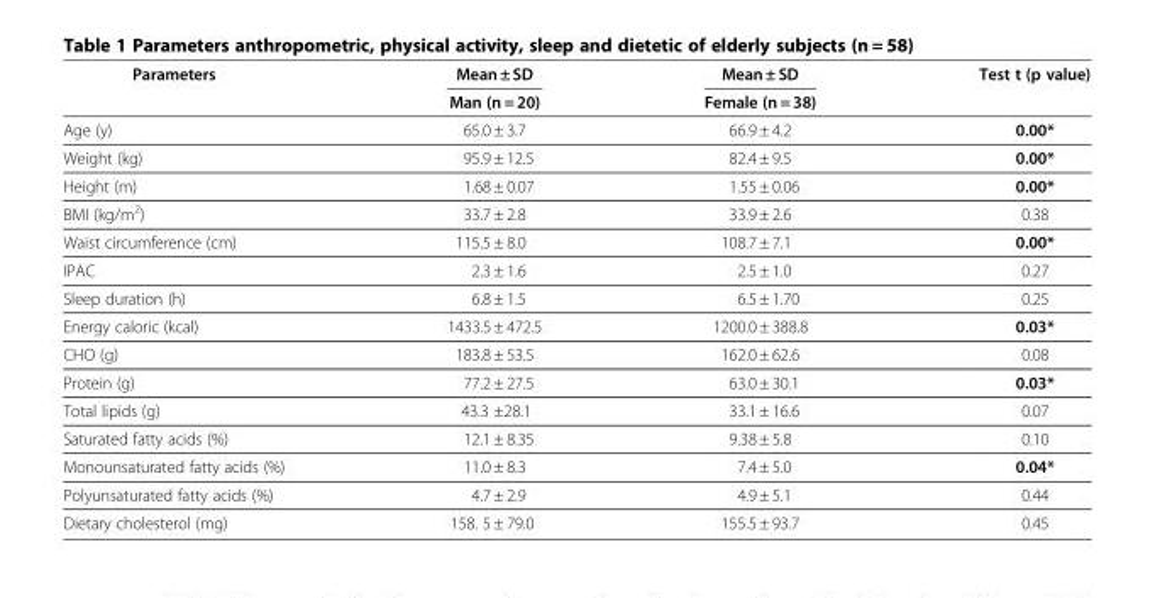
<table><thead><tr><td rowspan="2">Parameters</td><td rowspan="2">Mean ± SD Man (n = 20)</td><td rowspan="2">Mean ± SD Female (n = 38)</td><td rowspan="2">Test t (p value)</td></tr><tr></tr></thead><tbody><tr><td>Age (y)</td><td>65.0 ± 3.7</td><td>66.9 ± 4.2</td><td>0.00*</td></tr><tr><td>Weight (kg)</td><td>95.9 ± 12.5</td><td>82.4 ± 9.5</td><td>0.00*</td></tr><tr><td>Height (m)</td><td>1.68 ± 0.07</td><td>1.55 ± 0.06</td><td>0.00*</td></tr><tr><td>BMI (kg/m<sup>2</sup>)</td><td>33.7 ± 2.8</td><td>33.9 ± 2.6</td><td>0.38</td></tr><tr><td>Waist circumference (cm)</td><td>115.5 ± 8.0</td><td>108.7 ± 7.1</td><td>0.00*</td></tr><tr><td>IPAC</td><td>2.3 ± 1.6</td><td>2.5 ± 1.0</td><td>0.27</td></tr><tr><td>Sleep duration (h)</td><td>6.8 ± 1.5</td><td>6.5 ± 1.70</td><td>0.25</td></tr><tr><td>Energy caloric (kcal)</td><td>1433.5 ± 472.5</td><td>1200.0 ± 388.8</td><td>0.03*</td></tr><tr><td>CHO (g)</td><td>183.8 ± 53.5</td><td>162.0 ± 62.6</td><td>0.08</td></tr><tr><td>Protein (g)</td><td>77.2 ± 27.5</td><td>63.0 ± 30.1</td><td>0.03*</td></tr><tr><td>Total lipids (g)</td><td>43.3 ±28.1</td><td>33.1 ± 16.6</td><td>0.07</td></tr><tr><td>Saturated fatty acids (%)</td><td>12.1 ± 8.35</td><td>9.38 ± 5.8</td><td>0.10</td></tr><tr><td>Monounsaturated fatty acids (%)</td><td>11.0 ± 8.3</td><td>7.4 ± 5.0</td><td>0.04*</td></tr><tr><td>Polyunsaturated fatty acids (%)</td><td>4.7 ± 2.9</td><td>4.9 ± 5.1</td><td>0.44</td></tr><tr><td>Dietary cholesterol (mg)</td><td>158. 5 ± 79.0</td><td>155.5 ± 93.7</td><td>0.45</td></tr></tbody></table>